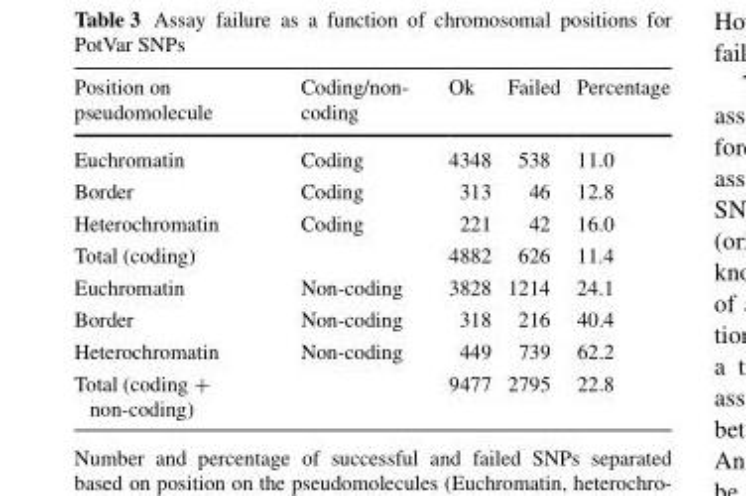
<table><thead><tr><td>Position on pseudomolecule</td><td>Coding/non- coding</td><td>Ok</td><td>Failed</td><td>Percentage</td></tr></thead><tbody><tr><td>Euchromatin</td><td>Coding</td><td>4348</td><td>538</td><td>11.0</td></tr><tr><td>Border</td><td>Coding</td><td>313</td><td>46</td><td>12.8</td></tr><tr><td>Heterochromatin</td><td>Coding</td><td>221</td><td>42</td><td>16.0</td></tr><tr><td>Total (coding)</td><td></td><td>4882</td><td>626</td><td>11.4</td></tr><tr><td>Euchromatin</td><td>Non-coding</td><td>3828</td><td>1214</td><td>24.1</td></tr><tr><td>Border</td><td>Non-coding</td><td>318</td><td>216</td><td>40.4</td></tr><tr><td>Heterochromatin</td><td>Non-coding</td><td>449</td><td>739</td><td>62.2</td></tr><tr><td>Total (coding + non-coding)</td><td></td><td>9477</td><td>2795</td><td>22.8</td></tr></tbody></table>